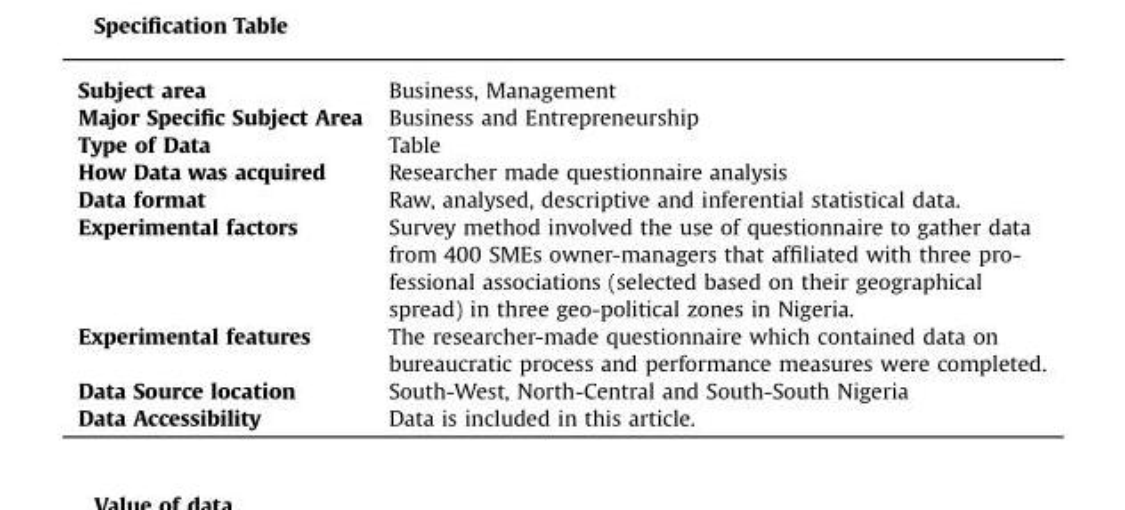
<table><tbody><tr><td>Subject area</td><td>Business, Management</td></tr><tr><td>Major Specific Subject Area</td><td>Business and Entrepreneurship</td></tr><tr><td>Type of Data</td><td>Table</td></tr><tr><td>How Data was acquired</td><td>Researcher made questionnaire analysis</td></tr><tr><td>Data format</td><td>Raw, analysed, descriptive and inferential statistical data.</td></tr><tr><td>Experimental factors</td><td>Survey method involved the use of questionnaire to gather data from 400 SMEs owner-managers that affiliated with three pro- fessional associations (selected based on their geographical spread) in three geo-political zones in Nigeria.</td></tr><tr><td>Experimental features</td><td>The researcher-made questionnaire which contained data on bureaucratic process and performance measures were completed.</td></tr><tr><td>Data Source location</td><td>South-West, North-Central and South-South Nigeria</td></tr><tr><td>Data Accessibility</td><td>Data is included in this article.</td></tr></tbody></table>